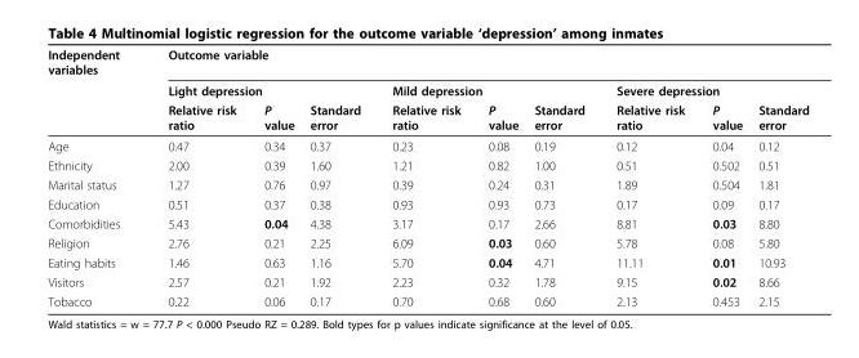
<table><thead><tr><td rowspan="3">Independent variables</td><td colspan="9">Outcome variable</td></tr><tr><td colspan="3">Light depression</td><td colspan="3">Mild depression</td><td colspan="3">Severe depression</td></tr><tr><td>Relative risk ratio</td><td>P value</td><td>Standard error</td><td>Relative risk ratio</td><td>P value</td><td>Standard error</td><td>Relative risk ratio</td><td>P value</td><td>Standard error</td></tr></thead><tbody><tr><td>Age</td><td>0.47</td><td>0.34</td><td>0.37</td><td>0.23</td><td>0.08</td><td>0.19</td><td>0.12</td><td>0.04</td><td>0.12</td></tr><tr><td>Ethnicity</td><td>2.00</td><td>0.39</td><td>1.60</td><td>1.21</td><td>0.82</td><td>1.00</td><td>0.51</td><td>0.502</td><td>0.51</td></tr><tr><td>Marital status</td><td>1.27</td><td>0.76</td><td>0.97</td><td>0.39</td><td>0.24</td><td>0.31</td><td>1.89</td><td>0.504</td><td>1.81</td></tr><tr><td>Education</td><td>0.51</td><td>0.37</td><td>0.38</td><td>0.93</td><td>0.93</td><td>0.73</td><td>0.17</td><td>0.09</td><td>0.17</td></tr><tr><td>Comorbidities</td><td>5.43</td><td>0.04</td><td>4.38</td><td>3.17</td><td>0.17</td><td>2.66</td><td>8.81</td><td>0.03</td><td>8.80</td></tr><tr><td>Religion</td><td>2.76</td><td>0.21</td><td>2.25</td><td>6.09</td><td>0.03</td><td>0.60</td><td>5.78</td><td>0.08</td><td>5.80</td></tr><tr><td>Eating habits</td><td>1.46</td><td>0.63</td><td>1.16</td><td>5.70</td><td>0.04</td><td>4.71</td><td>11.11</td><td>0.01</td><td>10.93</td></tr><tr><td>Visitors</td><td>2.57</td><td>0.21</td><td>1.92</td><td>2.23</td><td>0.32</td><td>1.78</td><td>9.15</td><td>0.02</td><td>8.66</td></tr><tr><td>Tobacco</td><td>0.22</td><td>0.06</td><td>0.17</td><td>0.70</td><td>0.68</td><td>0.60</td><td>2.13</td><td>0.453</td><td>2.15</td></tr></tbody></table>